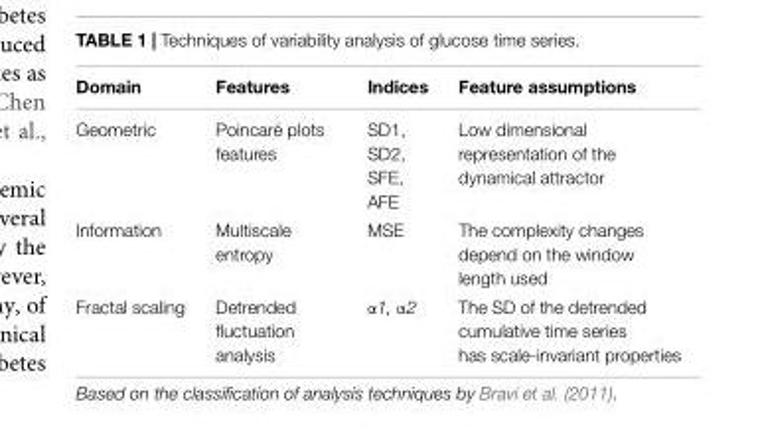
<table><thead><tr><td>Domain</td><td>Features</td><td>Indices</td><td>Feature assumptions</td></tr></thead><tbody><tr><td>Geometric</td><td>Poincaré plots features</td><td>SD1, SD2, SFE, AFE</td><td>Low dimensional representation of the dynamical attractor</td></tr><tr><td>Information</td><td>Multiscale entropy</td><td>MSE</td><td>The complexity changes depend on the window length used</td></tr><tr><td>Fractal scaling</td><td>Detrended fluctuation analysis</td><td>α1, α2</td><td>The SD of the detrended cumulative time series has scale-invariant properties</td></tr></tbody></table>